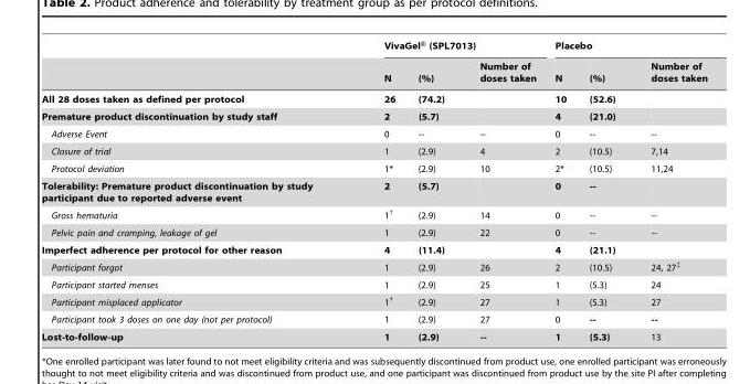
<table><thead><tr><td rowspan="2"></td><td colspan="3">VivaGel® (SPL7013)</td><td colspan="3">Placebo</td></tr><tr><td>N</td><td>(%)</td><td>Number of doses taken</td><td>N</td><td>(%)</td><td>Number of doses taken</td></tr></thead><tbody><tr><td>All 28 doses taken as defined per protocol</td><td>26</td><td>(74.2)</td><td></td><td>10</td><td>(52.6)</td><td></td></tr><tr><td>Premature product discontinuation by study staff</td><td>2</td><td>(5.7)</td><td></td><td>4</td><td>(21.0)</td><td></td></tr><tr><td>Adverse Event</td><td>0</td><td>--</td><td>--</td><td>0</td><td>--</td><td>--</td></tr><tr><td>Closure of trial</td><td>1</td><td>(2.9)</td><td>4</td><td>2</td><td>(10.5)</td><td>7,14</td></tr><tr><td>Protocol deviation</td><td>1*</td><td>(2.9)</td><td>10</td><td>2*</td><td>(10.5)</td><td>11,24</td></tr><tr><td>Tolerability: Premature product discontinuation by study participant due to reported adverse event</td><td>2</td><td>(5.7)</td><td></td><td>0</td><td>--</td><td></td></tr><tr><td>Gross hematuria</td><td>1†</td><td>(2.9)</td><td>14</td><td>0</td><td>--</td><td>--</td></tr><tr><td>Pelvic pain and cramping, leakage of gel</td><td>1</td><td>(2.9)</td><td>22</td><td>0</td><td>--</td><td>--</td></tr><tr><td>Imperfect adherence per protocol for other reason</td><td>4</td><td>(11.4)</td><td></td><td>4</td><td>(21.1)</td><td></td></tr><tr><td>Participant forgot</td><td>1</td><td>(2.9)</td><td>26</td><td>2</td><td>(10.5)</td><td>24, 27‡</td></tr><tr><td>Participant started menses</td><td>1</td><td>(2.9)</td><td>25</td><td>1</td><td>(5.3)</td><td>24</td></tr><tr><td>Participant misplaced applicator</td><td>1†</td><td>(2.9)</td><td>27</td><td>1</td><td>(5.3)</td><td>27</td></tr><tr><td>Participant took 3 doses on one day (not per protocol)</td><td>1</td><td>(2.9)</td><td>27</td><td>0</td><td>--</td><td>--</td></tr><tr><td>Lost-to-follow-up</td><td>1</td><td>(2.9)</td><td>--</td><td>1</td><td>(5.3)</td><td>13</td></tr></tbody></table>